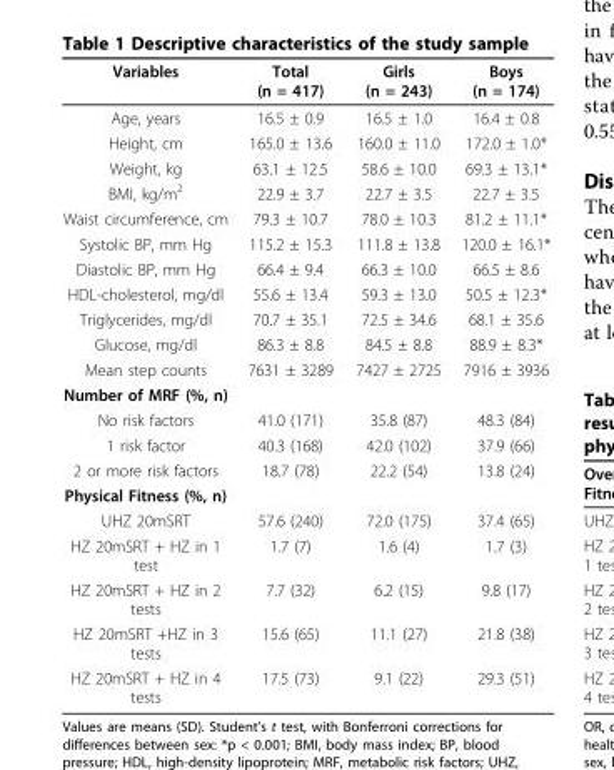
<table><thead><tr><td>Variables</td><td>Total (n = 417)</td><td>Girls (n = 243)</td><td>Boys (n = 174)</td></tr></thead><tbody><tr><td>Age, years</td><td>16.5 ± 0.9</td><td>16.5 ± 1.0</td><td>16.4 ± 0.8</td></tr><tr><td>Height, cm</td><td>165.0 ± 13.6</td><td>160.0 ± 11.0</td><td>172.0 ± 1.0*</td></tr><tr><td>Weight, kg</td><td>63.1 ± 12.5</td><td>58.6 ± 10.0</td><td>69.3 ± 13.1*</td></tr><tr><td>BMI, kg/m<sup>2</sup></td><td>22.9 ± 3.7</td><td>22.7 ± 3.5</td><td>22.7 ± 3.5</td></tr><tr><td>Waist circumference, cm</td><td>79.3 ± 10.7</td><td>78.0 ± 10.3</td><td>81.2 ± 11.1*</td></tr><tr><td>Systolic BP, mm Hg</td><td>115.2 ± 15.3</td><td>111.8 ± 13.8</td><td>120.0 ± 16.1*</td></tr><tr><td>Diastolic BP, mm Hg</td><td>66.4 ± 9.4</td><td>66.3 ± 10.0</td><td>66.5 ± 8.6</td></tr><tr><td>HDL-cholesterol, mg/dl</td><td>55.6 ± 13.4</td><td>59.3 ± 13.0</td><td>50.5 ± 12.3*</td></tr><tr><td>Triglycerides, mg/dl</td><td>70.7 ± 35.1</td><td>72.5 ± 34.6</td><td>68.1 ± 35.6</td></tr><tr><td>Glucose, mg/dl</td><td>86.3 ± 8.8</td><td>84.5 ± 8.8</td><td>88.9 ± 8.3*</td></tr><tr><td>Mean step counts</td><td>7631 ± 3289</td><td>7427 ± 2725</td><td>7916 ± 3936</td></tr><tr><td colspan="4">Number of MRF (%, n)</td></tr><tr><td>No risk factors</td><td>41.0 (171)</td><td>35.8 (87)</td><td>48.3 (84)</td></tr><tr><td>1 risk factor</td><td>40.3 (168)</td><td>42.0 (102)</td><td>37.9 (66)</td></tr><tr><td>2 or more risk factors</td><td>18.7 (78)</td><td>22.2 (54)</td><td>13.8 (24)</td></tr><tr><td colspan="4">Physical Fitness (%, n)</td></tr><tr><td>UHZ 20mSRT</td><td>57.6 (240)</td><td>72.0 (175)</td><td>37.4 (65)</td></tr><tr><td>HZ 20mSRT + HZ in 1 test</td><td>1.7 (7)</td><td>1.6 (4)</td><td>1.7 (3)</td></tr><tr><td>HZ 20mSRT + HZ in 2 tests</td><td>7.7 (32)</td><td>6.2 (15)</td><td>9.8 (17)</td></tr><tr><td>HZ 20mSRT +HZ in 3 tests</td><td>15.6 (65)</td><td>11.1 (27)</td><td>21.8 (38)</td></tr><tr><td>HZ 20mSRT + HZ in 4 tests</td><td>17.5 (73)</td><td>9.1 (22)</td><td>29.3 (51)</td></tr></tbody></table>